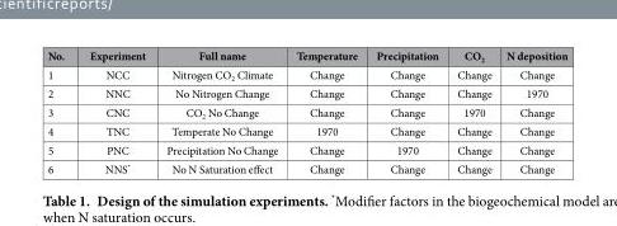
<table><thead><tr><td>No.</td><td>Experiment</td><td>Full name</td><td>Temperature</td><td>Precipitation</td><td>CO<sub>2</sub></td><td>N deposition</td></tr></thead><tbody><tr><td>1</td><td>NCC</td><td>Nitrogen CO<sub>2</sub> Climate</td><td>Change</td><td>Change</td><td>Change</td><td>Change</td></tr><tr><td>2</td><td>NNC</td><td>No Nitrogen Change</td><td>Change</td><td>Change</td><td>Change</td><td>1970</td></tr><tr><td>3</td><td>CNC</td><td>CO<sub>2</sub> No Change</td><td>Change</td><td>Change</td><td>1970</td><td>Change</td></tr><tr><td>4</td><td>TNC</td><td>Temperate No Change</td><td>1970</td><td>Change</td><td>Change</td><td>Change</td></tr><tr><td>5</td><td>PNC</td><td>Precipitation No Change</td><td>Change</td><td>1970</td><td>Change</td><td>Change</td></tr><tr><td>6</td><td>NNS*</td><td>No N Saturation effect</td><td>Change</td><td>Change</td><td>Change</td><td>Change</td></tr></tbody></table>